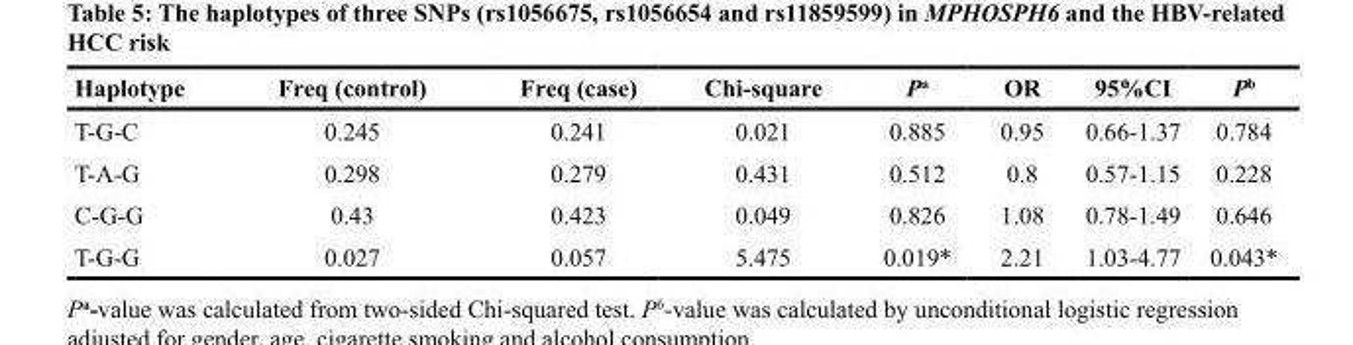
<table><thead><tr><td>Haplotype</td><td>Freq (control)</td><td>Freq (case)</td><td>Chi-square</td><td>P<sup>a</sup></td><td>OR</td><td>95%CI</td><td>P<sup>b</sup></td></tr></thead><tbody><tr><td>T-G-C</td><td>0.245</td><td>0.241</td><td>0.021</td><td>0.885</td><td>0.95</td><td>0.66-1.37</td><td>0.784</td></tr><tr><td>T-A-G</td><td>0.298</td><td>0.279</td><td>0.431</td><td>0.512</td><td>0.8</td><td>0.57-1.15</td><td>0.228</td></tr><tr><td>C-G-G</td><td>0.43</td><td>0.423</td><td>0.049</td><td>0.826</td><td>1.08</td><td>0.78-1.49</td><td>0.646</td></tr><tr><td>T-G-G</td><td>0.027</td><td>0.057</td><td>5.475</td><td>0.019*</td><td>2.21</td><td>1.03-4.77</td><td>0.043*</td></tr></tbody></table>